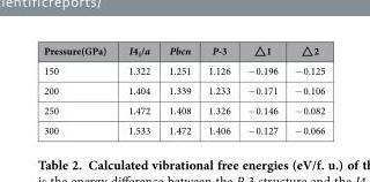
<table><thead><tr><td>Pressure(GPa)</td><td>I4<sub>1</sub>/a</td><td>Pbcn</td><td>P-3</td><td>△ 1</td><td>△ 2</td></tr></thead><tbody><tr><td>150</td><td>1.322</td><td>1.251</td><td>1.126</td><td>− 0.196</td><td>− 0.125</td></tr><tr><td>200</td><td>1.404</td><td>1.339</td><td>1.233</td><td>− 0.171</td><td>− 0.106</td></tr><tr><td>250</td><td>1.472</td><td>1.408</td><td>1.326</td><td>− 0.146</td><td>− 0.082</td></tr><tr><td>300</td><td>1.533</td><td>1.472</td><td>1.406</td><td>− 0.127</td><td>− 0.066</td></tr></tbody></table>